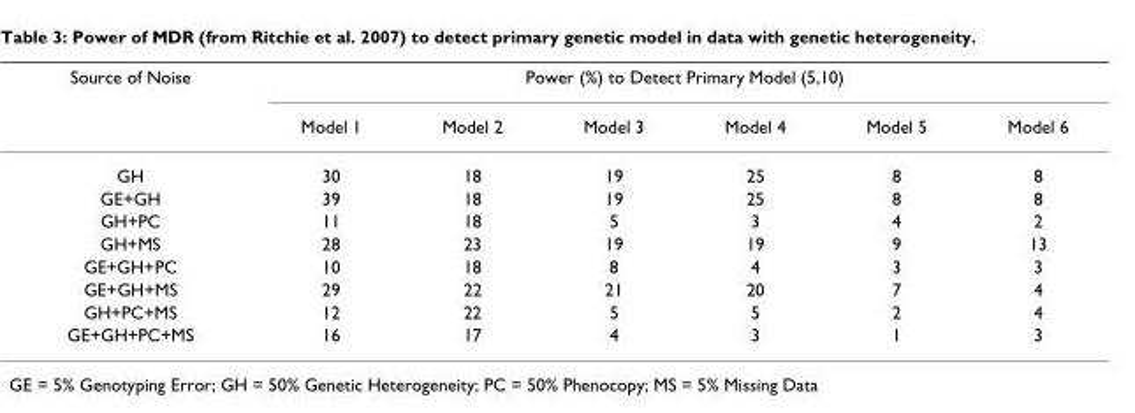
<table><thead><tr><td rowspan="2">Source of Noise</td><td colspan="6">Power (%) to Detect Primary Model (5,10)</td></tr><tr><td>Model 1</td><td>Model 2</td><td>Model 3</td><td>Model 4</td><td>Model 5</td><td>Model 6</td></tr></thead><tbody><tr><td>GH</td><td>30</td><td>18</td><td>19</td><td>25</td><td>8</td><td>8</td></tr><tr><td>GE+GH</td><td>39</td><td>18</td><td>19</td><td>25</td><td>8</td><td>8</td></tr><tr><td>GH+PC</td><td>11</td><td>18</td><td>5</td><td>3</td><td>4</td><td>2</td></tr><tr><td>GH+MS</td><td>28</td><td>23</td><td>19</td><td>19</td><td>9</td><td>13</td></tr><tr><td>GE+GH+PC</td><td>10</td><td>18</td><td>8</td><td>4</td><td>3</td><td>3</td></tr><tr><td>GE+GH+MS</td><td>29</td><td>22</td><td>21</td><td>20</td><td>7</td><td>4</td></tr><tr><td>GH+PC+MS</td><td>12</td><td>22</td><td>5</td><td>5</td><td>2</td><td>4</td></tr><tr><td>GE+GH+PC+MS</td><td>16</td><td>17</td><td>4</td><td>3</td><td>1</td><td>3</td></tr></tbody></table>